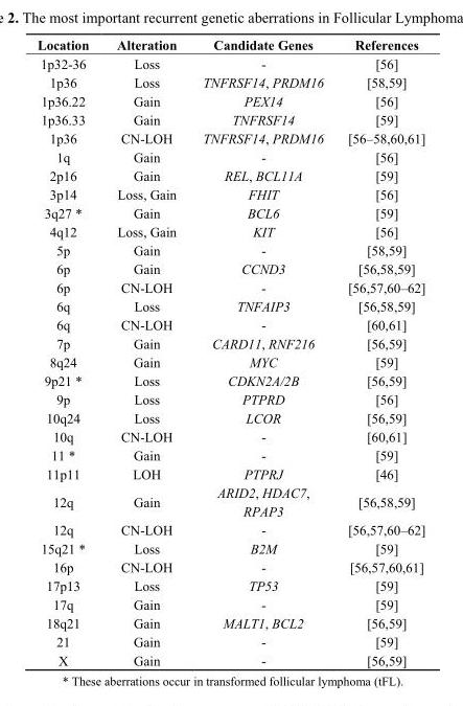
<table><thead><tr><td>Location</td><td>Alteration</td><td>Candidate Genes</td><td>References</td></tr></thead><tbody><tr><td>1p32-36</td><td>Loss</td><td>-</td><td>[56]</td></tr><tr><td>1p36</td><td>Loss</td><td>TNFRSF14, PRDM16</td><td>[58,59]</td></tr><tr><td>1p36.22</td><td>Gain</td><td>PEX14</td><td>[56]</td></tr><tr><td>1p36.33</td><td>Gain</td><td>TNFRSF14</td><td>[59]</td></tr><tr><td>1p36</td><td>CN-LOH</td><td>TNFRSF14, PRDM16</td><td>[56–58,60,61]</td></tr><tr><td>1q</td><td>Gain</td><td>-</td><td>[56]</td></tr><tr><td>2p16</td><td>Gain</td><td>REL, BCL11A</td><td>[59]</td></tr><tr><td>3p14</td><td>Loss, Gain</td><td>FHIT</td><td>[56]</td></tr><tr><td>3q27 *</td><td>Gain</td><td>BCL6</td><td>[59]</td></tr><tr><td>4q12</td><td>Loss, Gain</td><td>KIT</td><td>[56]</td></tr><tr><td>5p</td><td>Gain</td><td>-</td><td>[58,59]</td></tr><tr><td>6p</td><td>Gain</td><td>CCND3</td><td>[56,58,59]</td></tr><tr><td>6p</td><td>CN-LOH</td><td>-</td><td>[56,57,60–62]</td></tr><tr><td>6q</td><td>Loss</td><td>TNFAIP3</td><td>[56,58,59]</td></tr><tr><td>6q</td><td>CN-LOH</td><td>-</td><td>[60,61]</td></tr><tr><td>7p</td><td>Gain</td><td>CARD11, RNF216</td><td>[56,59]</td></tr><tr><td>8q24</td><td>Gain</td><td>MYC</td><td>[59]</td></tr><tr><td>9p21 *</td><td>Loss</td><td>CDKN2A/2B</td><td>[56,59]</td></tr><tr><td>9p</td><td>Loss</td><td>PTPRD</td><td>[56]</td></tr><tr><td>10q24</td><td>Loss</td><td>LCOR</td><td>[56,59]</td></tr><tr><td>10q</td><td>CN-LOH</td><td>-</td><td>[60,61]</td></tr><tr><td>11 *</td><td>Gain</td><td>-</td><td>[59]</td></tr><tr><td>11p11</td><td>LOH</td><td>PTPRJ</td><td>[46]</td></tr><tr><td>12q</td><td>Gain</td><td>ARID2, HDAC7, RPAP3</td><td>[56,58,59]</td></tr><tr><td>12q</td><td>CN-LOH</td><td>-</td><td>[56,57,60–62]</td></tr><tr><td>15q21 *</td><td>Loss</td><td>B2M</td><td>[59]</td></tr><tr><td>16p</td><td>CN-LOH</td><td>-</td><td>[56,57,60,61]</td></tr><tr><td>17p13</td><td>Loss</td><td>TP53</td><td>[59]</td></tr><tr><td>17q</td><td>Gain</td><td>-</td><td>[59]</td></tr><tr><td>18q21</td><td>Gain</td><td>MALT1, BCL2</td><td>[56,59]</td></tr><tr><td>21</td><td>Gain</td><td>-</td><td>[59]</td></tr><tr><td>X</td><td>Gain</td><td>-</td><td>[56,59]</td></tr></tbody></table>